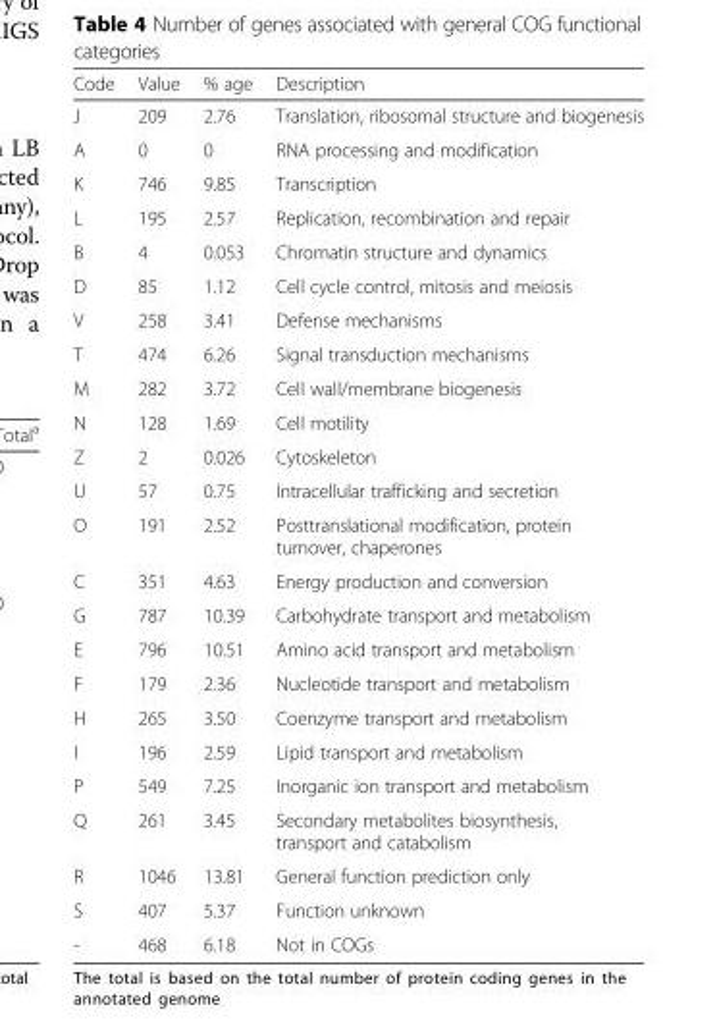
<table><thead><tr><td>Code</td><td>Value</td><td>% age</td><td>Description</td></tr></thead><tbody><tr><td>J</td><td>209</td><td>2.76</td><td>Translation, ribosomal structure and biogenesis</td></tr><tr><td>A</td><td>0</td><td>0</td><td>RNA processing and modification</td></tr><tr><td>K</td><td>746</td><td>9.85</td><td>Transcription</td></tr><tr><td>L</td><td>195</td><td>2.57</td><td>Replication, recombination and repair</td></tr><tr><td>B</td><td>4</td><td>0.053</td><td>Chromatin structure and dynamics</td></tr><tr><td>D</td><td>85</td><td>1.12</td><td>Cell cycle control, mitosis and meiosis</td></tr><tr><td>V</td><td>258</td><td>3.41</td><td>Defense mechanisms</td></tr><tr><td>T</td><td>474</td><td>6.26</td><td>Signal transduction mechanisms</td></tr><tr><td>M</td><td>282</td><td>3.72</td><td>Cell wall/membrane biogenesis</td></tr><tr><td>N</td><td>128</td><td>1.69</td><td>Cell motility</td></tr><tr><td>Z</td><td>2</td><td>0.026</td><td>Cytoskeleton</td></tr><tr><td>U</td><td>57</td><td>0.75</td><td>Intracellular trafficking and secretion</td></tr><tr><td>O</td><td>191</td><td>2.52</td><td>Posttranslational modification, protein turnover, chaperones</td></tr><tr><td>C</td><td>351</td><td>4.63</td><td>Energy production and conversion</td></tr><tr><td>G</td><td>787</td><td>10.39</td><td>Carbohydrate transport and metabolism</td></tr><tr><td>E</td><td>796</td><td>10.51</td><td>Amino acid transport and metabolism</td></tr><tr><td>F</td><td>179</td><td>2.36</td><td>Nucleotide transport and metabolism</td></tr><tr><td>H</td><td>265</td><td>3.50</td><td>Coenzyme transport and metabolism</td></tr><tr><td>I</td><td>196</td><td>2.59</td><td>Lipid transport and metabolism</td></tr><tr><td>P</td><td>549</td><td>7.25</td><td>Inorganic ion transport and metabolism</td></tr><tr><td>Q</td><td>261</td><td>3.45</td><td>Secondary metabolites biosynthesis, transport and catabolism</td></tr><tr><td>R</td><td>1046</td><td>13.81</td><td>General function prediction only</td></tr><tr><td>S</td><td>407</td><td>5.37</td><td>Function unknown</td></tr><tr><td>-</td><td>468</td><td>6.18</td><td>Not in COGs</td></tr></tbody></table>